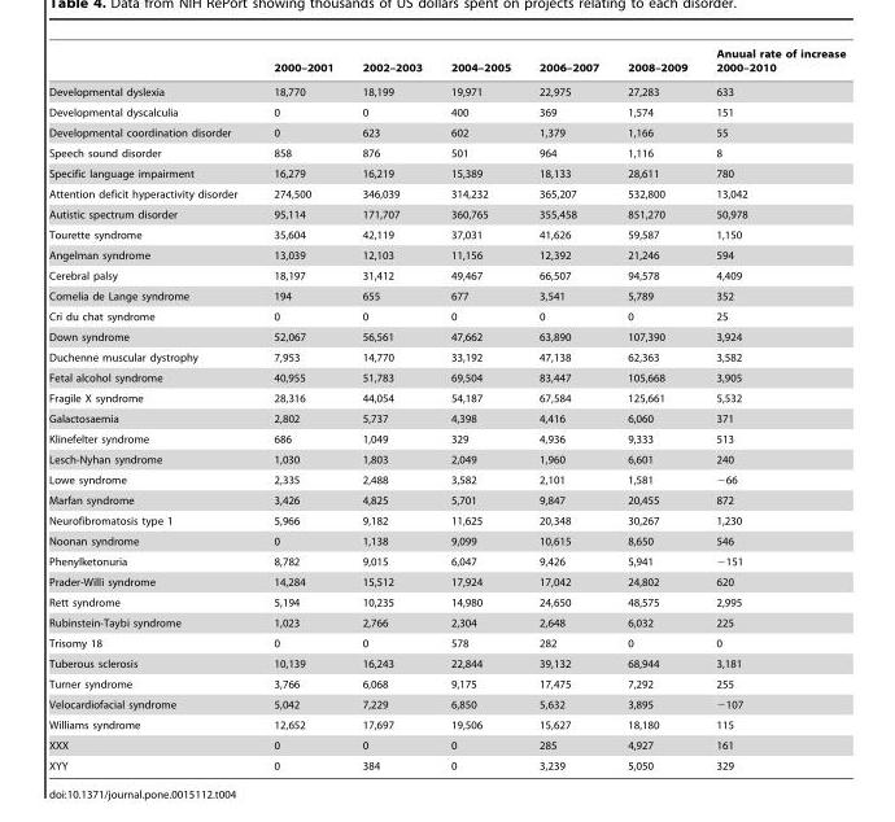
<table><thead><tr><td></td><td>2000–2001</td><td>2002–2003</td><td>2004–2005</td><td>2006–2007</td><td>2008–2009</td><td>Anuual rate of increase 2000–2010</td></tr></thead><tbody><tr><td>Developmental dyslexia</td><td>18,770</td><td>18,199</td><td>19,971</td><td>22,975</td><td>27,283</td><td>633</td></tr><tr><td>Developmental dyscalculia</td><td>0</td><td>0</td><td>400</td><td>369</td><td>1,574</td><td>151</td></tr><tr><td>Developmental coordination disorder</td><td>0</td><td>623</td><td>602</td><td>1,379</td><td>1,166</td><td>55</td></tr><tr><td>Speech sound disorder</td><td>858</td><td>876</td><td>501</td><td>964</td><td>1,116</td><td>8</td></tr><tr><td>Specific language impairment</td><td>16,279</td><td>16,219</td><td>15,389</td><td>18,133</td><td>28,611</td><td>780</td></tr><tr><td>Attention deficit hyperactivity disorder</td><td>274,500</td><td>346,039</td><td>314,232</td><td>365,207</td><td>532,800</td><td>13,042</td></tr><tr><td>Autistic spectrum disorder</td><td>95,114</td><td>171,707</td><td>360,765</td><td>355,458</td><td>851,270</td><td>50,978</td></tr><tr><td>Tourette syndrome</td><td>35,604</td><td>42,119</td><td>37,031</td><td>41,626</td><td>59,587</td><td>1,150</td></tr><tr><td>Angelman syndrome</td><td>13,039</td><td>12,103</td><td>11,156</td><td>12,392</td><td>21,246</td><td>594</td></tr><tr><td>Cerebral palsy</td><td>18,197</td><td>31,412</td><td>49,467</td><td>66,507</td><td>94,578</td><td>4,409</td></tr><tr><td>Cornelia de Lange syndrome</td><td>194</td><td>655</td><td>677</td><td>3,541</td><td>5,789</td><td>352</td></tr><tr><td>Cri du chat syndrome</td><td>0</td><td>0</td><td>0</td><td>0</td><td>0</td><td>25</td></tr><tr><td>Down syndrome</td><td>52,067</td><td>56,561</td><td>47,662</td><td>63,890</td><td>107,390</td><td>3,924</td></tr><tr><td>Duchenne muscular dystrophy</td><td>7,953</td><td>14,770</td><td>33,192</td><td>47,138</td><td>62,363</td><td>3,582</td></tr><tr><td>Fetal alcohol syndrome</td><td>40,955</td><td>51,783</td><td>69,504</td><td>83,447</td><td>105,668</td><td>3,905</td></tr><tr><td>Fragile X syndrome</td><td>28,316</td><td>44,054</td><td>54,187</td><td>67,584</td><td>125,661</td><td>5,532</td></tr><tr><td>Galactosaemia</td><td>2,802</td><td>5,737</td><td>4,398</td><td>4,416</td><td>6,060</td><td>371</td></tr><tr><td>Klinefelter syndrome</td><td>686</td><td>1,049</td><td>329</td><td>4,936</td><td>9,333</td><td>513</td></tr><tr><td>Lesch-Nyhan syndrome</td><td>1,030</td><td>1,803</td><td>2,049</td><td>1,960</td><td>6,601</td><td>240</td></tr><tr><td>Lowe syndrome</td><td>2,335</td><td>2,488</td><td>3,582</td><td>2,101</td><td>1,581</td><td>−66</td></tr><tr><td>Marfan syndrome</td><td>3,426</td><td>4,825</td><td>5,701</td><td>9,847</td><td>20,455</td><td>872</td></tr><tr><td>Neurofibromatosis type 1</td><td>5,966</td><td>9,182</td><td>11,625</td><td>20,348</td><td>30,267</td><td>1,230</td></tr><tr><td>Noonan syndrome</td><td>0</td><td>1,138</td><td>9,099</td><td>10,615</td><td>8,650</td><td>546</td></tr><tr><td>Phenylketonuria</td><td>8,782</td><td>9,015</td><td>6,047</td><td>9,426</td><td>5,941</td><td>−151</td></tr><tr><td>Prader-Willi syndrome</td><td>14,284</td><td>15,512</td><td>17,924</td><td>17,042</td><td>24,802</td><td>620</td></tr><tr><td>Rett syndrome</td><td>5,194</td><td>10,235</td><td>14,980</td><td>24,650</td><td>48,575</td><td>2,995</td></tr><tr><td>Rubinstein-Taybi syndrome</td><td>1,023</td><td>2,766</td><td>2,304</td><td>2,648</td><td>6,032</td><td>225</td></tr><tr><td>Trisomy 18</td><td>0</td><td>0</td><td>578</td><td>282</td><td>0</td><td>0</td></tr><tr><td>Tuberous sclerosis</td><td>10,139</td><td>16,243</td><td>22,844</td><td>39,132</td><td>68,944</td><td>3,181</td></tr><tr><td>Turner syndrome</td><td>3,766</td><td>6,068</td><td>9,175</td><td>17,475</td><td>7,292</td><td>255</td></tr><tr><td>Velocardiofacial syndrome</td><td>5,042</td><td>7,229</td><td>6,850</td><td>5,632</td><td>3,895</td><td>−107</td></tr><tr><td>Williams syndrome</td><td>12,652</td><td>17,697</td><td>19,506</td><td>15,627</td><td>18,180</td><td>115</td></tr><tr><td>XXX</td><td>0</td><td>0</td><td>0</td><td>285</td><td>4,927</td><td>161</td></tr><tr><td>XYY</td><td>0</td><td>384</td><td>0</td><td>3,239</td><td>5,050</td><td>329</td></tr></tbody></table>